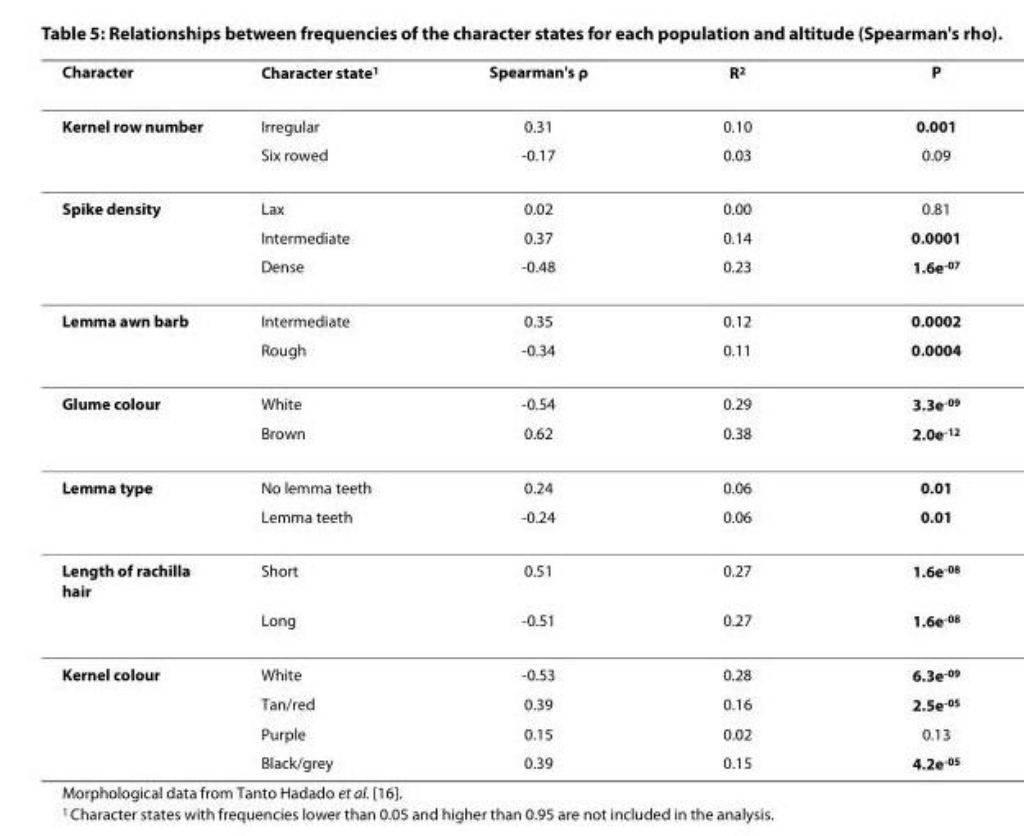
<table><thead><tr><td>Character</td><td>Character state<sup>1</sup></td><td>Spearman&#x27;s ρ</td><td>R<sup>2</sup></td><td>P</td></tr></thead><tbody><tr><td rowspan="2">Kernel row number</td><td>Irregular</td><td>0.31</td><td>0.10</td><td>0.001</td></tr><tr><td>Six rowed</td><td>-0.17</td><td>0.03</td><td>0.09</td></tr><tr><td rowspan="3">Spike density</td><td>Lax</td><td>0.02</td><td>0.00</td><td>0.81</td></tr><tr><td>Intermediate</td><td>0.37</td><td>0.14</td><td>0.0001</td></tr><tr><td>Dense</td><td>-0.48</td><td>0.23</td><td>1.6e<sup>-07</sup></td></tr><tr><td rowspan="2">Lemma awn barb</td><td>Intermediate</td><td>0.35</td><td>0.12</td><td>0.0002</td></tr><tr><td>Rough</td><td>-0.34</td><td>0.11</td><td>0.0004</td></tr><tr><td rowspan="2">Glume colour</td><td>White</td><td>-0.54</td><td>0.29</td><td>3.3e<sup>-09</sup></td></tr><tr><td>Brown</td><td>0.62</td><td>0.38</td><td>2.0e<sup>-12</sup></td></tr><tr><td rowspan="2">Lemma type</td><td>No lemma teeth</td><td>0.24</td><td>0.06</td><td>0.01</td></tr><tr><td>Lemma teeth</td><td>-0.24</td><td>0.06</td><td>0.01</td></tr><tr><td rowspan="2">Length of rachilla hair</td><td>Short</td><td>0.51</td><td>0.27</td><td>1.6e<sup>-08</sup></td></tr><tr><td>Long</td><td>-0.51</td><td>0.27</td><td>1.6e<sup>-08</sup></td></tr><tr><td rowspan="4">Kernel colour</td><td>White</td><td>-0.53</td><td>0.28</td><td>6.3e<sup>-09</sup></td></tr><tr><td>Tan/red</td><td>0.39</td><td>0.16</td><td>2.5e<sup>-05</sup></td></tr><tr><td>Purple</td><td>0.15</td><td>0.02</td><td>0.13</td></tr><tr><td>Black/grey</td><td>0.39</td><td>0.15</td><td>4.2e<sup>-05</sup></td></tr></tbody></table>